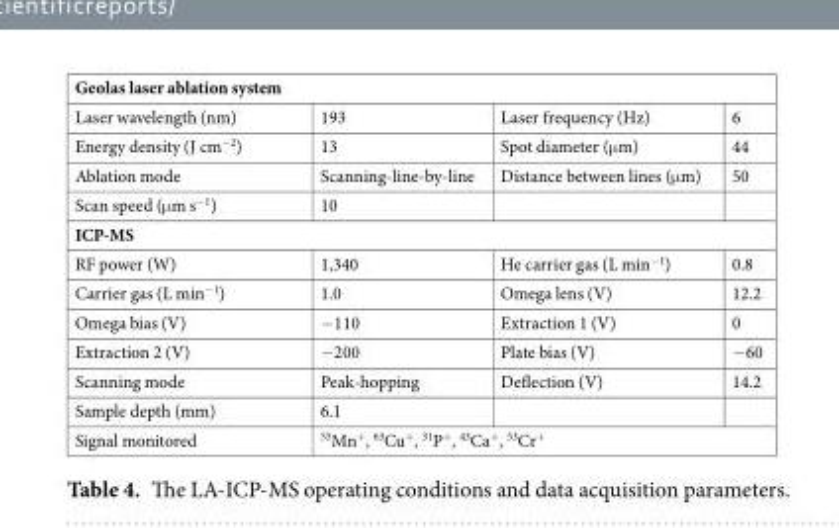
<table><tbody><tr><td colspan="4">Geolas laser ablation system</td></tr><tr><td>Laser wavelength (nm)</td><td>193</td><td>Laser frequency (Hz)</td><td>6</td></tr><tr><td>Energy density (J cm<sup>−2</sup>)</td><td>13</td><td>Spot diameter (μm)</td><td>44</td></tr><tr><td>Ablation mode</td><td>Scanning-line-by-line</td><td>Distance between lines (μm)</td><td>50</td></tr><tr><td>Scan speed (μm s<sup>−1</sup>)</td><td>10</td><td></td><td></td></tr><tr><td colspan="4">ICP-MS</td></tr><tr><td>RF power (W)</td><td>1,340</td><td>He carrier gas (L min<sup>−1</sup>)</td><td>0.8</td></tr><tr><td>Carrier gas (L min<sup>−1</sup>)</td><td>1.0</td><td>Omega lens (V)</td><td>12.2</td></tr><tr><td>Omega bias (V)</td><td>−110</td><td>Extraction 1 (V)</td><td>0</td></tr><tr><td>Extraction 2 (V)</td><td>−200</td><td>Plate bias (V)</td><td>−60</td></tr><tr><td>Scanning mode</td><td>Peak-hopping</td><td>Deflection (V)</td><td>14.2</td></tr><tr><td>Sample depth (mm)</td><td>6.1</td><td></td><td></td></tr><tr><td>Signal monitored</td><td colspan="3"><sup>55</sup>Mn<sup>+</sup>, <sup>63</sup>Cu<sup>+</sup>, <sup>31</sup>P<sup>+</sup>, <sup>43</sup>Ca<sup>+</sup>, <sup>53</sup>Cr<sup>+</sup></td></tr></tbody></table>